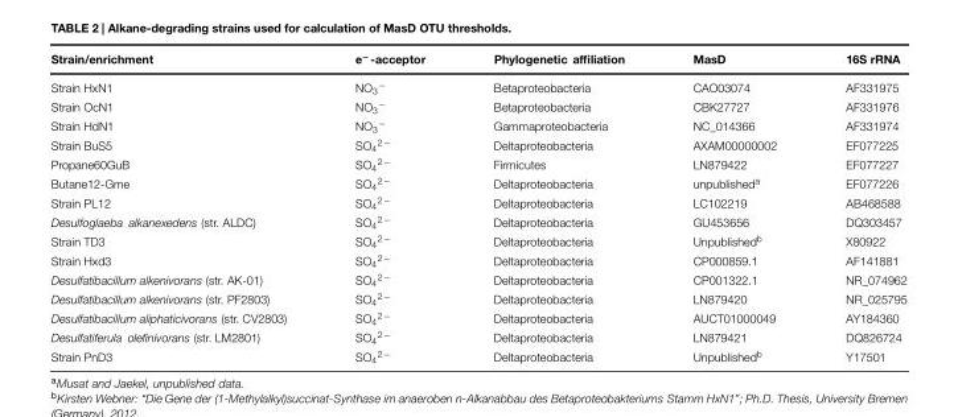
<table><thead><tr><td>Strain/enrichment</td><td>e<sup>−</sup>-acceptor</td><td>Phylogenetic affiliation</td><td>MasD</td><td>16S rRNA</td></tr></thead><tbody><tr><td>Strain HxN1</td><td>NO<sub>3</sub><sup>−</sup></td><td>Betaproteobacteria</td><td>CAO03074</td><td>AF331975</td></tr><tr><td>Strain OcN1</td><td>NO<sub>3</sub><sup>−</sup></td><td>Betaproteobacteria</td><td>CBK27727</td><td>AF331976</td></tr><tr><td>Strain HdN1</td><td>NO<sub>3</sub><sup>−</sup></td><td>Gammaproteobacteria</td><td>NC_014366</td><td>AF331974</td></tr><tr><td>Strain BuS5</td><td>SO<sub>4</sub><sup>2−</sup></td><td>Deltaproteobacteria</td><td>AXAM00000002</td><td>EF077225</td></tr><tr><td>Propane60GuB</td><td>SO<sub>4</sub><sup>2−</sup></td><td>Firmicutes</td><td>LN879422</td><td>EF077227</td></tr><tr><td>Butane12-Gme</td><td>SO<sub>4</sub><sup>2−</sup></td><td>Deltaproteobacteria</td><td>unpublished<sup>a</sup></td><td>EF077226</td></tr><tr><td>Strain PL12</td><td>SO<sub>4</sub><sup>2−</sup></td><td>Deltaproteobacteria</td><td>LC102219</td><td>AB468588</td></tr><tr><td>Desulfoglaeba alkanexedens (str. ALDC)</td><td>SO<sub>4</sub><sup>2−</sup></td><td>Deltaproteobacteria</td><td>GU453656</td><td>DQ303457</td></tr><tr><td>Strain TD3</td><td>SO<sub>4</sub><sup>2−</sup></td><td>Deltaproteobacteria</td><td>Unpublished<sup>b</sup></td><td>X80922</td></tr><tr><td>Strain Hxd3</td><td>SO<sub>4</sub><sup>2−</sup></td><td>Deltaproteobacteria</td><td>CP000859.1</td><td>AF141881</td></tr><tr><td>Desulfatibacillum alkenivorans (str. AK-01)</td><td>SO<sub>4</sub><sup>2−</sup></td><td>Deltaproteobacteria</td><td>CP001322.1</td><td>NR_074962</td></tr><tr><td>Desulfatibacillum alkenivorans (str. PF2803)</td><td>SO<sub>4</sub><sup>2−</sup></td><td>Deltaproteobacteria</td><td>LN879420</td><td>NR_025795</td></tr><tr><td>Desulfatibacillum aliphaticivorans (str. CV2803)</td><td>SO<sub>4</sub><sup>2−</sup></td><td>Deltaproteobacteria</td><td>AUCT01000049</td><td>AY184360</td></tr><tr><td>Desulfatiferula olefinivorans (str. LM2801)</td><td>SO<sub>4</sub><sup>2−</sup></td><td>Deltaproteobacteria</td><td>LN879421</td><td>DQ826724</td></tr><tr><td>Strain PnD3</td><td>SO<sub>4</sub><sup>2−</sup></td><td>Deltaproteobacteria</td><td>Unpublished<sup>b</sup></td><td>Y17501</td></tr></tbody></table>